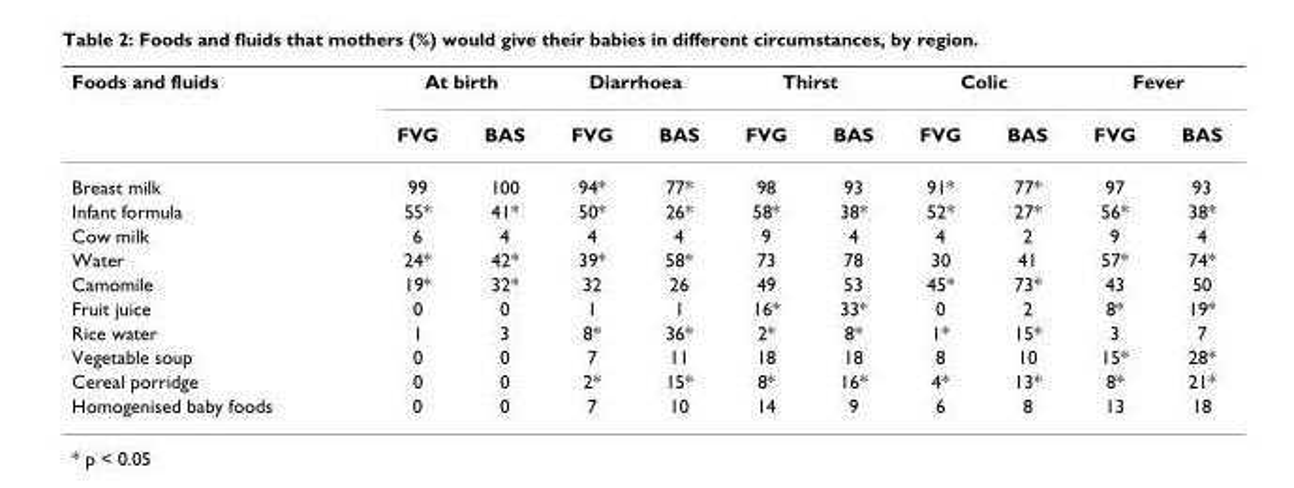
<table><thead><tr><td rowspan="2">Foods and fluids</td><td colspan="2">At birth</td><td colspan="2">Diarrhoea</td><td colspan="2">Thirst</td><td colspan="2">Colic</td><td colspan="2">Fever</td></tr><tr><td>FVG</td><td>BAS</td><td>FVG</td><td>BAS</td><td>FVG</td><td>BAS</td><td>FVG</td><td>BAS</td><td>FVG</td><td>BAS</td></tr></thead><tbody><tr><td>Breast milk</td><td>99</td><td>100</td><td>94*</td><td>77*</td><td>98</td><td>93</td><td>91*</td><td>77*</td><td>97</td><td>93</td></tr><tr><td>Infant formula</td><td>55*</td><td>41*</td><td>50*</td><td>26*</td><td>58*</td><td>38*</td><td>52*</td><td>27*</td><td>56*</td><td>38*</td></tr><tr><td>Cow milk</td><td>6</td><td>4</td><td>4</td><td>4</td><td>9</td><td>4</td><td>4</td><td>2</td><td>9</td><td>4</td></tr><tr><td>Water</td><td>24*</td><td>42*</td><td>39*</td><td>58*</td><td>73</td><td>78</td><td>30</td><td>41</td><td>57*</td><td>74*</td></tr><tr><td>Camomile</td><td>19*</td><td>32*</td><td>32</td><td>26</td><td>49</td><td>53</td><td>45*</td><td>73*</td><td>43</td><td>50</td></tr><tr><td>Fruit juice</td><td>0</td><td>0</td><td>1</td><td>1</td><td>16*</td><td>33*</td><td>0</td><td>2</td><td>8*</td><td>19*</td></tr><tr><td>Rice water</td><td>1</td><td>3</td><td>8*</td><td>36*</td><td>2*</td><td>8*</td><td>1*</td><td>15*</td><td>3</td><td>7</td></tr><tr><td>Vegetable soup</td><td>0</td><td>0</td><td>7</td><td>11</td><td>18</td><td>18</td><td>8</td><td>10</td><td>15*</td><td>28*</td></tr><tr><td>Cereal porridge</td><td>0</td><td>0</td><td>2*</td><td>15*</td><td>8*</td><td>16*</td><td>4*</td><td>13*</td><td>8*</td><td>21*</td></tr><tr><td>Homogenised baby foods</td><td>0</td><td>0</td><td>7</td><td>10</td><td>14</td><td>9</td><td>6</td><td>8</td><td>13</td><td>18</td></tr></tbody></table>